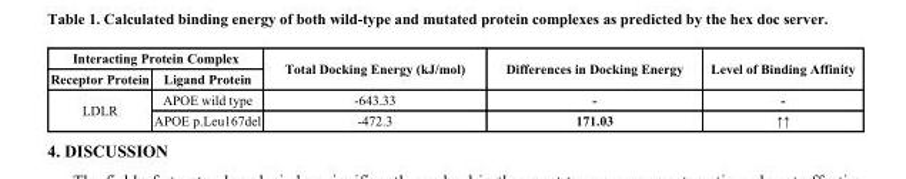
<table><thead><tr><td colspan="2">Interacting Protein Complex</td><td rowspan="2">Total Docking Energy (kJ/mol)</td><td rowspan="2">Differences in Docking Energy</td><td rowspan="2">Level of Binding Affinity</td></tr><tr><td>Receptor Protein</td><td>Ligand Protein</td></tr></thead><tbody><tr><td rowspan="2">LDLR</td><td>APOE wild type</td><td>-643.33</td><td>-</td><td>-</td></tr><tr><td>APOE p.Leu167del</td><td>-472.3</td><td>171.03</td><td>↑↑</td></tr></tbody></table>